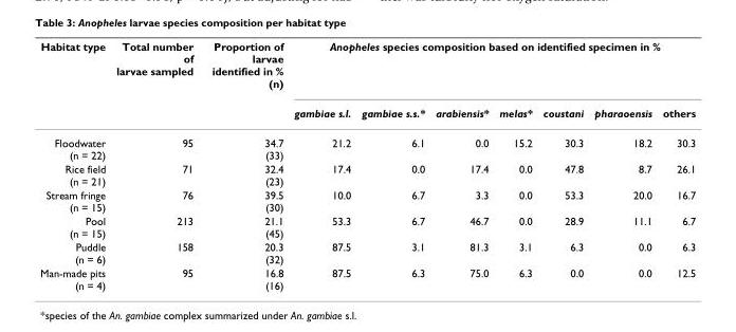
<table><thead><tr><td rowspan="2">Habitat type</td><td rowspan="2">Total number of larvae sampled</td><td rowspan="2">Proportion of larvae identified in % (n)</td><td colspan="7">Anopheles species composition based on identified specimen in %</td></tr><tr><td>gambiae s.l.</td><td>gambiae s.s.*</td><td>arabiensis*</td><td>melas*</td><td>coustani</td><td>pharaoensis</td><td>others</td></tr></thead><tbody><tr><td>Floodwater (n = 22)</td><td>95</td><td>34.7 (33)</td><td>21.2</td><td>6.1</td><td>0.0</td><td>15.2</td><td>30.3</td><td>18.2</td><td>30.3</td></tr><tr><td>Rice field (n = 21)</td><td>71</td><td>32.4 (23)</td><td>17.4</td><td>0.0</td><td>17.4</td><td>0.0</td><td>47.8</td><td>8.7</td><td>26.1</td></tr><tr><td>Stream fringe (n = 15)</td><td>76</td><td>39.5 (30)</td><td>10.0</td><td>6.7</td><td>3.3</td><td>0.0</td><td>53.3</td><td>20.0</td><td>16.7</td></tr><tr><td>Pool (n = 15)</td><td>213</td><td>21.1 (45)</td><td>53.3</td><td>6.7</td><td>46.7</td><td>0.0</td><td>28.9</td><td>11.1</td><td>6.7</td></tr><tr><td>Puddle (n = 6)</td><td>158</td><td>20.3 (32)</td><td>87.5</td><td>3.1</td><td>81.3</td><td>3.1</td><td>6.3</td><td>0.0</td><td>6.3</td></tr><tr><td>Man-made pits (n = 4)</td><td>95</td><td>16.8 (16)</td><td>87.5</td><td>6.3</td><td>75.0</td><td>6.3</td><td>0.0</td><td>0.0</td><td>12.5</td></tr></tbody></table>